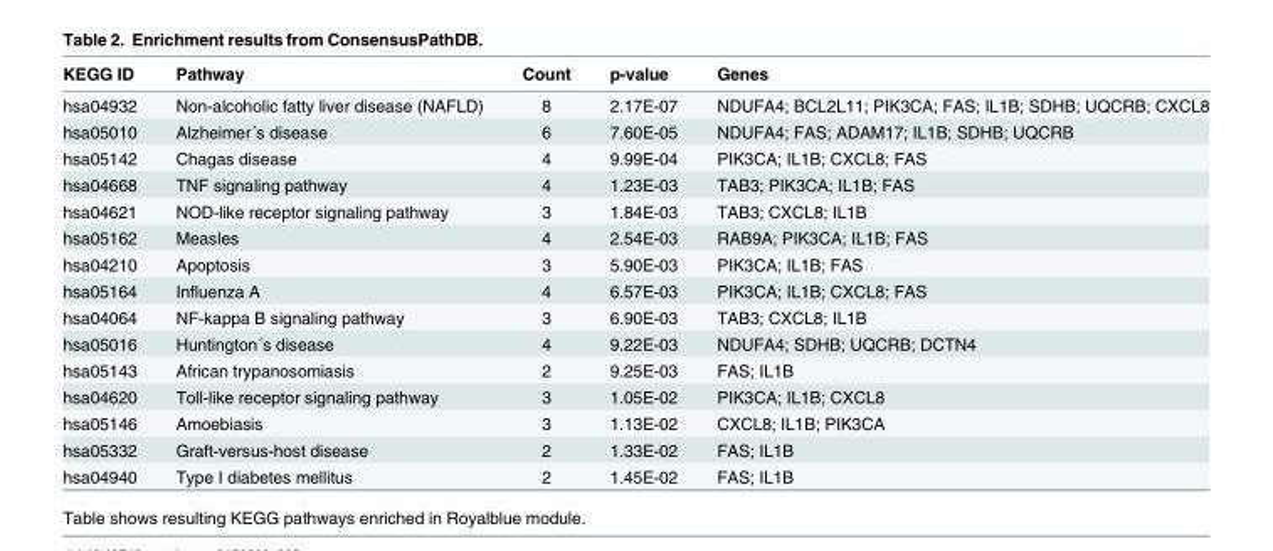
<table><thead><tr><td>KEGG ID</td><td>Pathway</td><td>Count</td><td>p-value</td><td>Genes</td></tr></thead><tbody><tr><td>hsa04932</td><td>Non-alcoholic fatty liver disease (NAFLD)</td><td>8</td><td>2.17E-07</td><td>NDUFA4; BCL2L11; PIK3CA; FAS; IL1B; SDHB; UQCRB; CXCL8</td></tr><tr><td>hsa05010</td><td>Alzheimer´s disease</td><td>6</td><td>7.60E-05</td><td>NDUFA4; FAS; ADAM17; IL1B; SDHB; UQCRB</td></tr><tr><td>hsa05142</td><td>Chagas disease</td><td>4</td><td>9.99E-04</td><td>PIK3CA; IL1B; CXCL8; FAS</td></tr><tr><td>hsa04668</td><td>TNF signaling pathway</td><td>4</td><td>1.23E-03</td><td>TAB3; PIK3CA; IL1B; FAS</td></tr><tr><td>hsa04621</td><td>NOD-like receptor signaling pathway</td><td>3</td><td>1.84E-03</td><td>TAB3; CXCL8; IL1B</td></tr><tr><td>hsa05162</td><td>Measles</td><td>4</td><td>2.54E-03</td><td>RAB9A; PIK3CA; IL1B; FAS</td></tr><tr><td>hsa04210</td><td>Apoptosis</td><td>3</td><td>5.90E-03</td><td>PIK3CA; IL1B; FAS</td></tr><tr><td>hsa05164</td><td>Influenza A</td><td>4</td><td>6.57E-03</td><td>PIK3CA; IL1B; CXCL8; FAS</td></tr><tr><td>hsa04064</td><td>NF-kappa B signaling pathway</td><td>3</td><td>6.90E-03</td><td>TAB3; CXCL8; IL1B</td></tr><tr><td>hsa05016</td><td>Huntington´s disease</td><td>4</td><td>9.22E-03</td><td>NDUFA4; SDHB; UQCRB; DCTN4</td></tr><tr><td>hsa05143</td><td>African trypanosomiasis</td><td>2</td><td>9.25E-03</td><td>FAS; IL1B</td></tr><tr><td>hsa04620</td><td>Toll-like receptor signaling pathway</td><td>3</td><td>1.05E-02</td><td>PIK3CA; IL1B; CXCL8</td></tr><tr><td>hsa05146</td><td>Amoebiasis</td><td>3</td><td>1.13E-02</td><td>CXCL8; IL1B; PIK3CA</td></tr><tr><td>hsa05332</td><td>Graft-versus-host disease</td><td>2</td><td>1.33E-02</td><td>FAS; IL1B</td></tr><tr><td>hsa04940</td><td>Type I diabetes mellitus</td><td>2</td><td>1.45E-02</td><td>FAS; IL1B</td></tr></tbody></table>